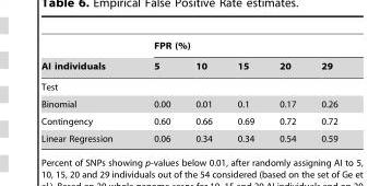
<table><thead><tr><td rowspan="2">AI individuals</td><td colspan="5">FPR (%)</td></tr><tr><td>5</td><td>10</td><td>15</td><td>20</td><td>29</td></tr></thead><tbody><tr><td colspan="6">Test</td></tr><tr><td>Binomial</td><td>0.00</td><td>0.01</td><td>0.1</td><td>0.17</td><td>0.26</td></tr><tr><td>Contingency</td><td>0.60</td><td>0.66</td><td>0.69</td><td>0.72</td><td>0.72</td></tr><tr><td>Linear Regression</td><td>0.06</td><td>0.34</td><td>0.34</td><td>0.54</td><td>0.59</td></tr></tbody></table>